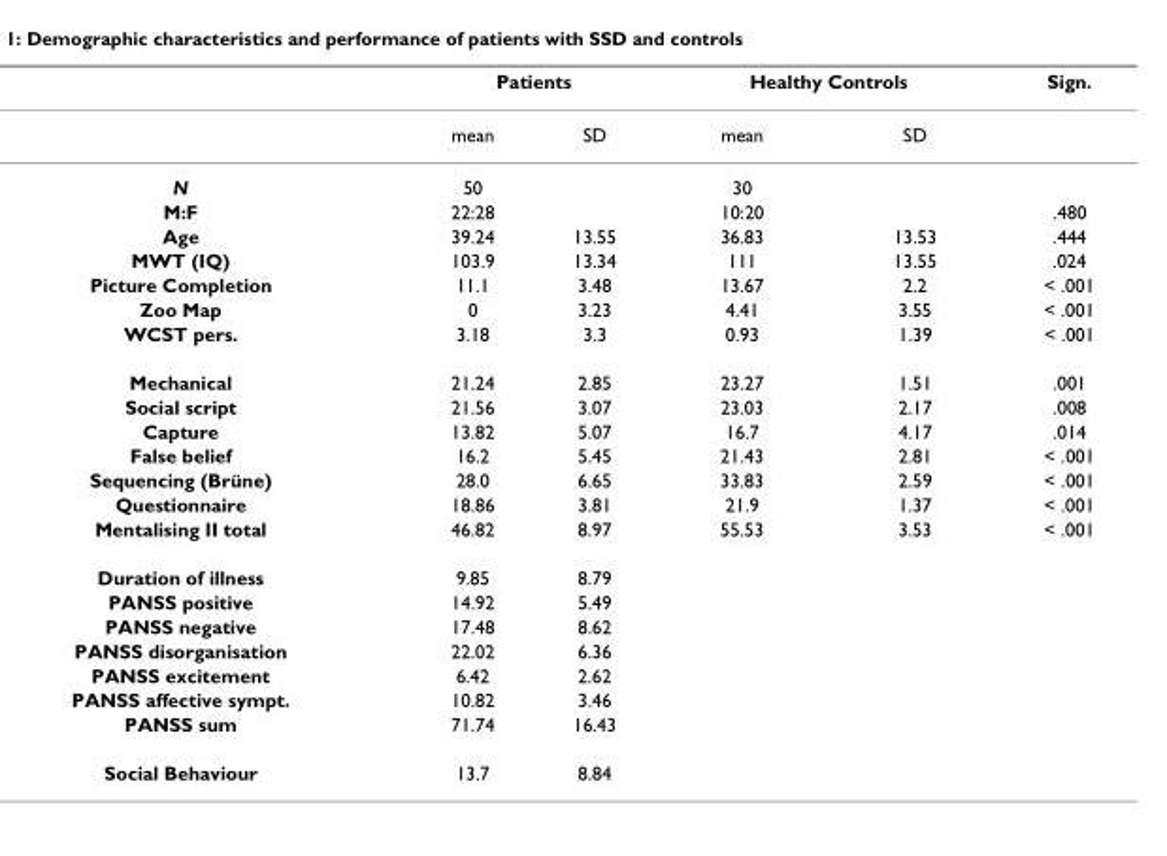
<table><thead><tr><td rowspan="2"></td><td colspan="2">Patients</td><td colspan="2">Healthy Controls</td><td rowspan="2">Sign.</td></tr><tr><td>mean</td><td>SD</td><td>mean</td><td>SD</td></tr></thead><tbody><tr><td>N</td><td>50</td><td></td><td>30</td><td></td><td></td></tr><tr><td>M:F</td><td>22:28</td><td></td><td>10:20</td><td></td><td>.480</td></tr><tr><td>Age</td><td>39.24</td><td>13.55</td><td>36.83</td><td>13.53</td><td>.444</td></tr><tr><td>MWT (IQ)</td><td>103.9</td><td>13.34</td><td>111</td><td>13.55</td><td>.024</td></tr><tr><td>Picture Completion</td><td>11.1</td><td>3.48</td><td>13.67</td><td>2.2</td><td>&lt; .001</td></tr><tr><td>Zoo Map</td><td>0</td><td>3.23</td><td>4.41</td><td>3.55</td><td>&lt; .001</td></tr><tr><td>WCST pers.</td><td>3.18</td><td>3.3</td><td>0.93</td><td>1.39</td><td>&lt; .001</td></tr><tr><td>Mechanical</td><td>21.24</td><td>2.85</td><td>23.27</td><td>1.51</td><td>.001</td></tr><tr><td>Social script</td><td>21.56</td><td>3.07</td><td>23.03</td><td>2.17</td><td>.008</td></tr><tr><td>Capture</td><td>13.82</td><td>5.07</td><td>16.7</td><td>4.17</td><td>.014</td></tr><tr><td>False belief</td><td>16.2</td><td>5.45</td><td>21.43</td><td>2.81</td><td>&lt; .001</td></tr><tr><td>Sequencing (Brüne)</td><td>28.0</td><td>6.65</td><td>33.83</td><td>2.59</td><td>&lt; .001</td></tr><tr><td>Questionnaire</td><td>18.86</td><td>3.81</td><td>21.9</td><td>1.37</td><td>&lt; .001</td></tr><tr><td>Mentalising II total</td><td>46.82</td><td>8.97</td><td>55.53</td><td>3.53</td><td>&lt; .001</td></tr><tr><td>Duration of illness</td><td>9.85</td><td>8.79</td><td></td><td></td><td></td></tr><tr><td>PANSS positive</td><td>14.92</td><td>5.49</td><td></td><td></td><td></td></tr><tr><td>PANSS negative</td><td>17.48</td><td>8.62</td><td></td><td></td><td></td></tr><tr><td>PANSS disorganisation</td><td>22.02</td><td>6.36</td><td></td><td></td><td></td></tr><tr><td>PANSS excitement</td><td>6.42</td><td>2.62</td><td></td><td></td><td></td></tr><tr><td>PANSS affective sympt.</td><td>10.82</td><td>3.46</td><td></td><td></td><td></td></tr><tr><td>PANSS sum</td><td>71.74</td><td>16.43</td><td></td><td></td><td></td></tr><tr><td>Social Behaviour</td><td>13.7</td><td>8.84</td><td></td><td></td><td></td></tr></tbody></table>